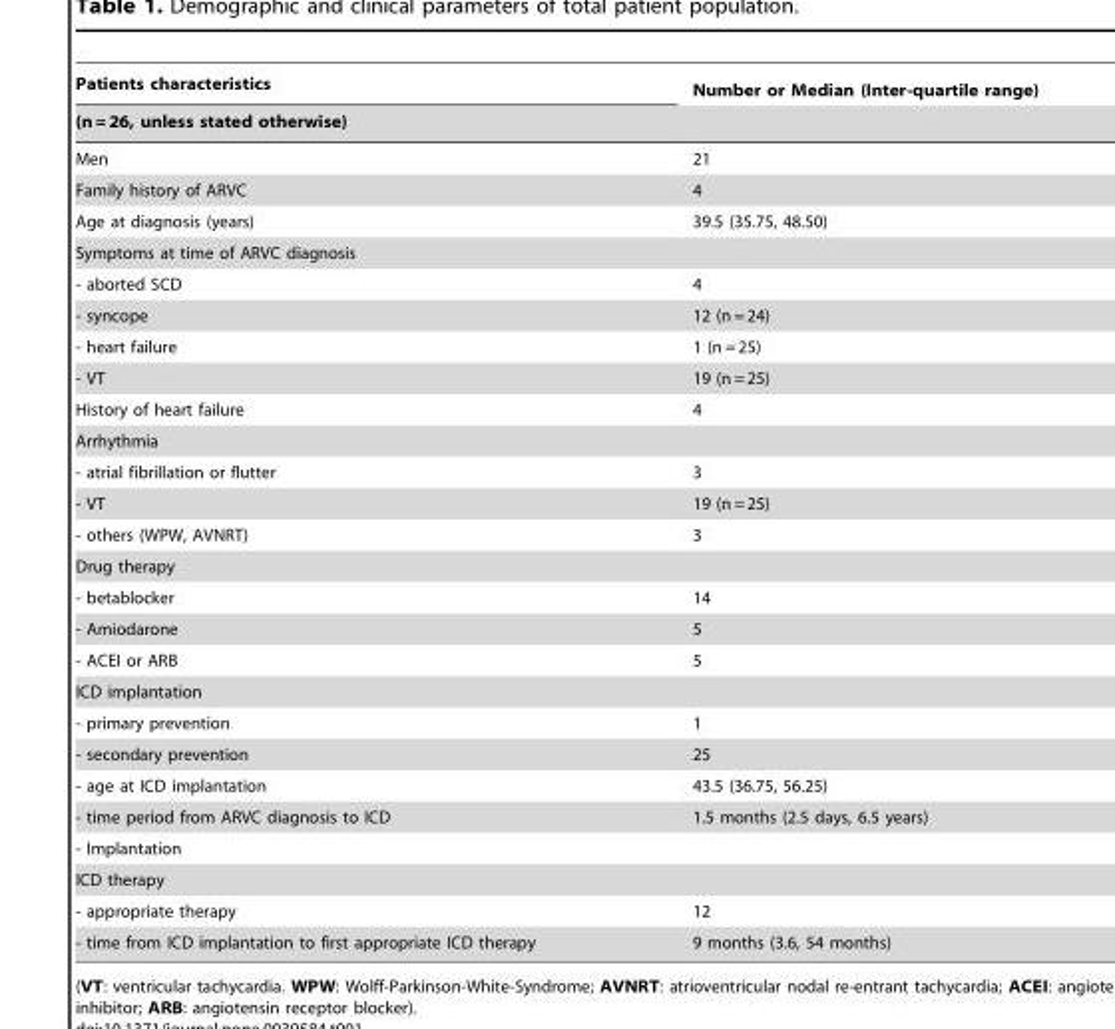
<table><thead><tr><td rowspan="2">Patients characteristics (n = 26, unless stated otherwise)</td><td rowspan="2">Number or Median (Inter-quartile range)</td></tr><tr></tr></thead><tbody><tr><td>Men</td><td>21</td></tr><tr><td>Family history of ARVC</td><td>4</td></tr><tr><td>Age at diagnosis (years)</td><td>39.5 (35.75, 48.50)</td></tr><tr><td colspan="2">Symptoms at time of ARVC diagnosis</td></tr><tr><td>- aborted SCD</td><td>4</td></tr><tr><td>- syncope</td><td>12 (n = 24)</td></tr><tr><td>- heart failure</td><td>1 (n = 25)</td></tr><tr><td>- VT</td><td>19 (n = 25)</td></tr><tr><td>History of heart failure</td><td>4</td></tr><tr><td colspan="2">Arrhythmia</td></tr><tr><td>- atrial fibrillation or flutter</td><td>3</td></tr><tr><td>- VT</td><td>19 (n = 25)</td></tr><tr><td>- others (WPW, AVNRT)</td><td>3</td></tr><tr><td colspan="2">Drug therapy</td></tr><tr><td>- betablocker</td><td>14</td></tr><tr><td>- Amiodarone</td><td>5</td></tr><tr><td>- ACEI or ARB</td><td>5</td></tr><tr><td colspan="2">ICD implantation</td></tr><tr><td>- primary prevention</td><td>1</td></tr><tr><td>- secondary prevention</td><td>25</td></tr><tr><td>- age at ICD implantation</td><td>43.5 (36.75, 56.25)</td></tr><tr><td>- time period from ARVC diagnosis to ICD</td><td>1.5 months (2.5 days, 6.5 years)</td></tr><tr><td colspan="2">- Implantation</td></tr><tr><td colspan="2">ICD therapy</td></tr><tr><td>- appropriate therapy</td><td>12</td></tr><tr><td>- time from ICD implantation to first appropriate ICD therapy</td><td>9 months (3.6, 54 months)</td></tr></tbody></table>